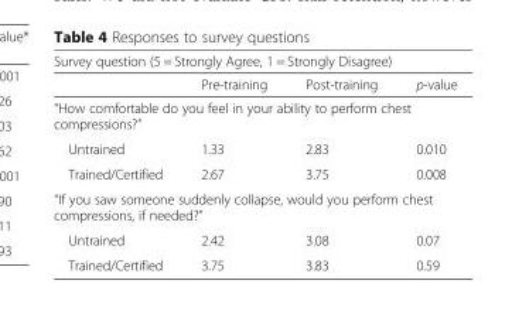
<table><thead><tr><td colspan="4">Survey question (5 = Strongly Agree, 1 = Strongly Disagree)</td></tr><tr><td></td><td>Pre-training</td><td>Post-training</td><td>p-value</td></tr></thead><tbody><tr><td colspan="4">“How comfortable do you feel in your ability to perform chest compressions?”</td></tr><tr><td>Untrained</td><td>1.33</td><td>2.83</td><td>0.010</td></tr><tr><td>Trained/Certified</td><td>2.67</td><td>3.75</td><td>0.008</td></tr><tr><td colspan="4">“If you saw someone suddenly collapse, would you perform chest compressions, if needed?”</td></tr><tr><td>Untrained</td><td>2.42</td><td>3.08</td><td>0.07</td></tr><tr><td>Trained/Certified</td><td>3.75</td><td>3.83</td><td>0.59</td></tr></tbody></table>